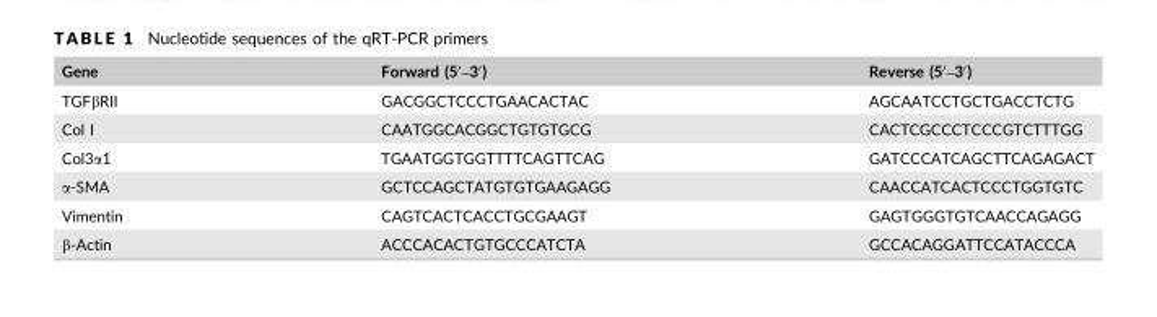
<table><thead><tr><td>Gene</td><td>Forward (5′–3′)</td><td>Reverse (5′–3′)</td></tr></thead><tbody><tr><td>TGFβRII</td><td>GACGGCTCCCTGAACACTAC</td><td>AGCAATCCTGCTGACCTCTG</td></tr><tr><td>Col I</td><td>CAATGGCACGGCTGTGTGCG</td><td>CACTCGCCCTCCCGTCTTTGG</td></tr><tr><td>Col3α1</td><td>TGAATGGTGGTTTTCAGTTCAG</td><td>GATCCCATCAGCTTCAGAGACT</td></tr><tr><td>α-SMA</td><td>GCTCCAGCTATGTGTGAAGAGG</td><td>CAACCATCACTCCCTGGTGTC</td></tr><tr><td>Vimentin</td><td>CAGTCACTCACCTGCGAAGT</td><td>GAGTGGGTGTCAACCAGAGG</td></tr><tr><td>β-Actin</td><td>ACCCACACTGTGCCCATCTA</td><td>GCCACAGGATTCCATACCCA</td></tr></tbody></table>